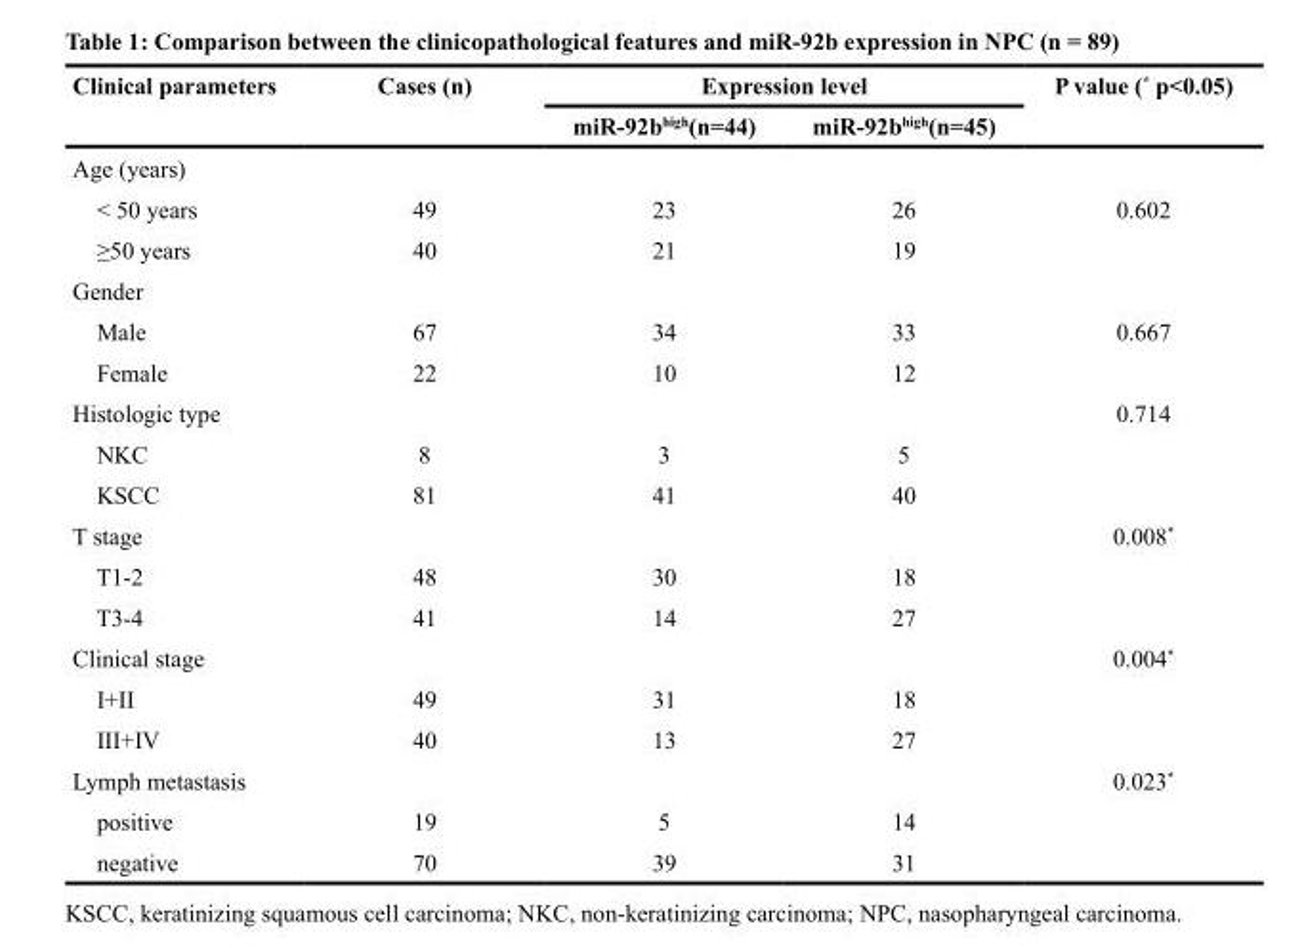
<table><thead><tr><td rowspan="2">Clinical parameters</td><td rowspan="2">Cases (n)</td><td colspan="2">Expression level</td><td rowspan="2">P value (* p&lt;0.05)</td></tr><tr><td>miR-92bhigh(n=44)</td><td>miR-92bhigh(n=45)</td></tr></thead><tbody><tr><td colspan="5">Age (years)</td></tr><tr><td>&lt; 50 years</td><td>49</td><td>23</td><td>26</td><td>0.602</td></tr><tr><td>≥50 years</td><td>40</td><td>21</td><td>19</td><td></td></tr><tr><td colspan="5">Gender</td></tr><tr><td>Male</td><td>67</td><td>34</td><td>33</td><td>0.667</td></tr><tr><td>Female</td><td>22</td><td>10</td><td>12</td><td></td></tr><tr><td>Histologic type</td><td></td><td></td><td></td><td>0.714</td></tr><tr><td>NKC</td><td>8</td><td>3</td><td>5</td><td></td></tr><tr><td>KSCC</td><td>81</td><td>41</td><td>40</td><td></td></tr><tr><td>T stage</td><td></td><td></td><td></td><td>0.008*</td></tr><tr><td>T1-2</td><td>48</td><td>30</td><td>18</td><td></td></tr><tr><td>T3-4</td><td>41</td><td>14</td><td>27</td><td></td></tr><tr><td>Clinical stage</td><td></td><td></td><td></td><td>0.004*</td></tr><tr><td>I+II</td><td>49</td><td>31</td><td>18</td><td></td></tr><tr><td>III+IV</td><td>40</td><td>13</td><td>27</td><td></td></tr><tr><td>Lymph metastasis</td><td></td><td></td><td></td><td>0.023*</td></tr><tr><td>positive</td><td>19</td><td>5</td><td>14</td><td></td></tr><tr><td>negative</td><td>70</td><td>39</td><td>31</td><td></td></tr></tbody></table>